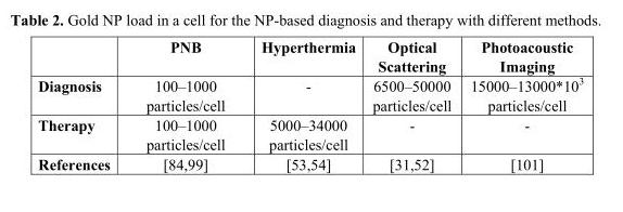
<table><thead><tr><td></td><td>PNB</td><td>Hyperthermia</td><td>Optical Scattering</td><td>Photoacoustic Imaging</td></tr></thead><tbody><tr><td>Diagnosis</td><td>100–1000 particles/cell</td><td>-</td><td>6500–50000 particles/cell</td><td>15000–13000*10<sup>3</sup> particles/cell</td></tr><tr><td>Therapy</td><td>100–1000 particles/cell</td><td>5000–34000 particles/cell</td><td>-</td><td>-</td></tr><tr><td>References</td><td>[84,99]</td><td>[53,54]</td><td>[31,52]</td><td>[101]</td></tr></tbody></table>